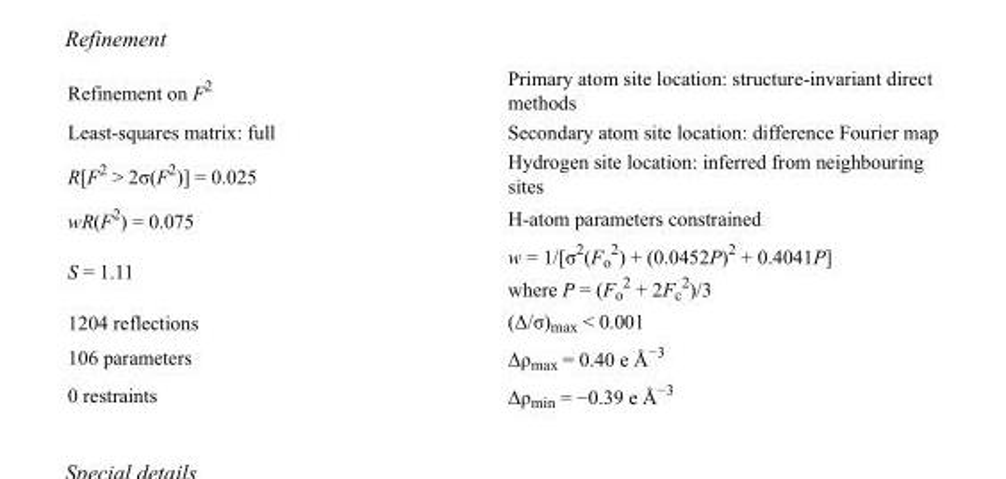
<table><tbody><tr><td>Refinement on F<sup>2</sup></td><td>Primary atom site location: structure-invariant direct methods</td></tr><tr><td>Least-squares matrix: full</td><td>Secondary atom site location: difference Fourier map</td></tr><tr><td>R[F<sup>2</sup> &gt; 2σ(F<sup>2</sup>)] = 0.025</td><td>Hydrogen site location: inferred from neighbouring sites</td></tr><tr><td>wR(F<sup>2</sup>) = 0.075</td><td>H-atom parameters constrained</td></tr><tr><td>S = 1.11</td><td>w = 1/[σ<sup>2</sup>(F<sub>o</sub> <sup>2</sup>) + (0.0452P)<sup>2</sup> + 0.4041P] where P = (F<sub>o</sub> <sup>2</sup> + 2F<sub>c</sub> <sup>2</sup>)/3</td></tr><tr><td>1204 reflections</td><td>(Δ/σ)<sub>max</sub> &lt; 0.001</td></tr><tr><td>106 parameters</td><td>Δρ<sub>max</sub> = 0.40 e Å<sup>−3</sup></td></tr><tr><td>0 restraints</td><td>Δρ<sub>min</sub> = −0.39 e Å<sup>−3</sup></td></tr></tbody></table>